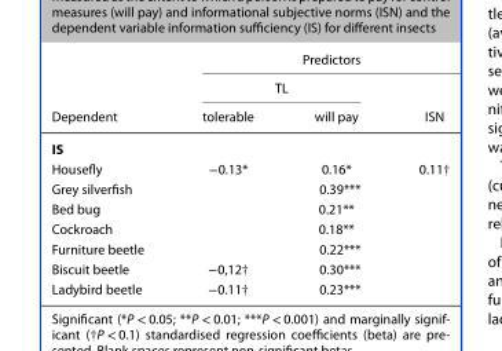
<table><thead><tr><td rowspan="3">Dependent</td><td colspan="3">Predictors</td></tr><tr><td colspan="2">TL</td><td rowspan="2">ISN</td></tr><tr><td>tolerable</td><td>will pay</td></tr></thead><tbody><tr><td colspan="4">IS</td></tr><tr><td>Housefly</td><td>−0.13*</td><td>0.16*</td><td>0.11†</td></tr><tr><td>Grey silverfish</td><td></td><td>0.39***</td><td></td></tr><tr><td>Bed bug</td><td></td><td>0.21**</td><td></td></tr><tr><td>Cockroach</td><td></td><td>0.18**</td><td></td></tr><tr><td>Furniture beetle</td><td></td><td>0.22***</td><td></td></tr><tr><td>Biscuit beetle</td><td>−0,12†</td><td>0.30***</td><td></td></tr><tr><td>Ladybird beetle</td><td>−0.11†</td><td>0.23***</td><td></td></tr></tbody></table>